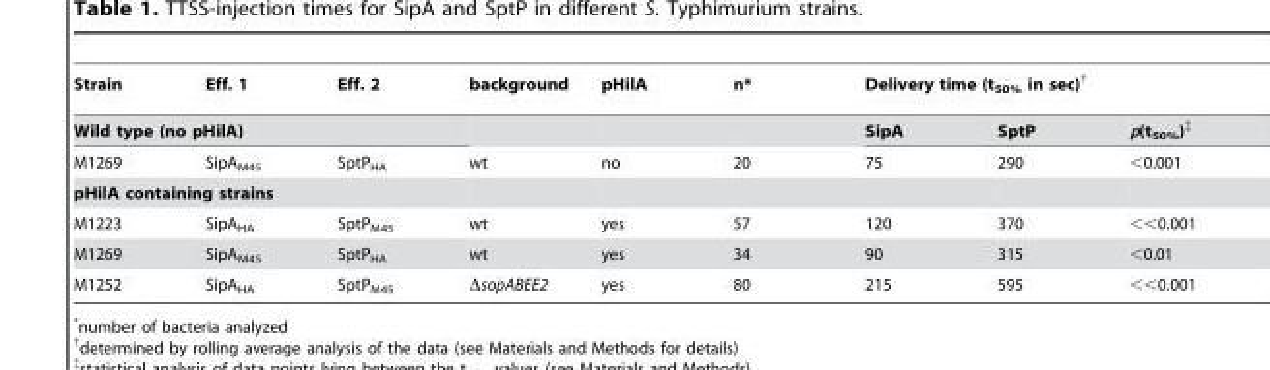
<table><thead><tr><td>Strain</td><td>Eff. 1</td><td>Eff. 2</td><td rowspan="2">background</td><td rowspan="2">pHilA</td><td rowspan="2">n*</td><td colspan="3">Delivery time (t<sub>50%</sub> in sec)†</td></tr><tr><td colspan="3">Wild type (no pHilA)</td><td>SipA</td><td>SptP</td><td>p(t<sub>50%</sub>)‡</td></tr></thead><tbody><tr><td>M1269</td><td>SipA<sub>M45</sub></td><td>SptP<sub>HA</sub></td><td>wt</td><td>no</td><td>20</td><td>75</td><td>290</td><td>&lt;0.001</td></tr><tr><td colspan="9">pHilA containing strains</td></tr><tr><td>M1223</td><td>SipA<sub>HA</sub></td><td>SptP<sub>M45</sub></td><td>wt</td><td>yes</td><td>57</td><td>120</td><td>370</td><td>&lt;&lt;0.001</td></tr><tr><td>M1269</td><td>SipA<sub>M45</sub></td><td>SptP<sub>HA</sub></td><td>wt</td><td>yes</td><td>34</td><td>90</td><td>315</td><td>&lt;0.01</td></tr><tr><td>M1252</td><td>SipA<sub>HA</sub></td><td>SptP<sub>M45</sub></td><td>ΔsopABEE2</td><td>yes</td><td>80</td><td>215</td><td>595</td><td>&lt;&lt;0.001</td></tr></tbody></table>